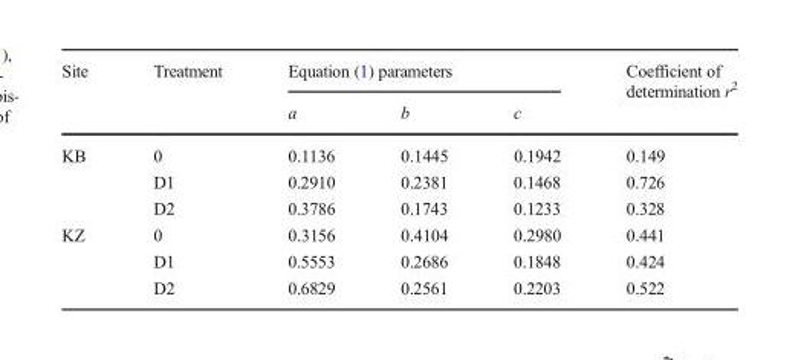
<table><thead><tr><td rowspan="2">Site</td><td rowspan="2">Treatment</td><td colspan="3">Equation (1) parameters</td><td rowspan="2">Coefficient of determination r<sup>2</sup></td></tr><tr><td>a</td><td>b</td><td>c</td></tr></thead><tbody><tr><td rowspan="3">KB</td><td>0</td><td>0.1136</td><td>0.1445</td><td>0.1942</td><td>0.149</td></tr><tr><td>D1</td><td>0.2910</td><td>0.2381</td><td>0.1468</td><td>0.726</td></tr><tr><td>D2</td><td>0.3786</td><td>0.1743</td><td>0.1233</td><td>0.328</td></tr><tr><td rowspan="3">KZ</td><td>0</td><td>0.3156</td><td>0.4104</td><td>0.2980</td><td>0.441</td></tr><tr><td>D1</td><td>0.5553</td><td>0.2686</td><td>0.1848</td><td>0.424</td></tr><tr><td>D2</td><td>0.6829</td><td>0.2561</td><td>0.2203</td><td>0.522</td></tr></tbody></table>